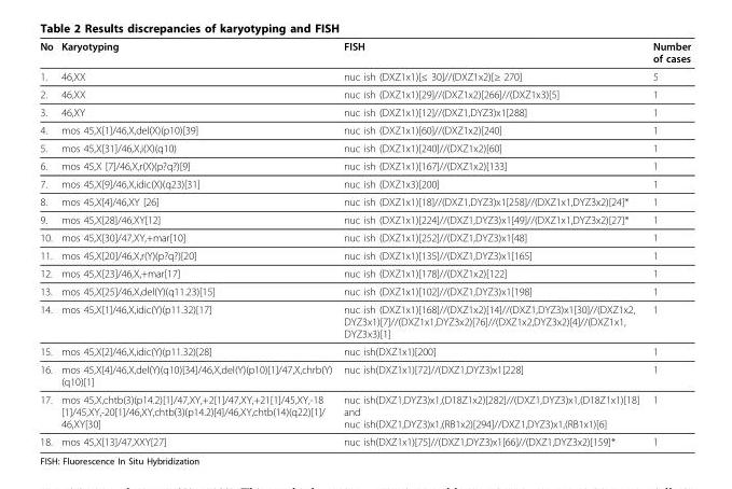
<table><thead><tr><td>No</td><td>Karyotyping</td><td>FISH</td><td>Number of cases</td></tr></thead><tbody><tr><td>1.</td><td>46,XX</td><td>nuc ish (DXZ1x1)[≤ 30]//(DXZ1x2)[≥ 270]</td><td>5</td></tr><tr><td>2.</td><td>46,XX</td><td>nuc ish (DXZ1x1)[29]//(DXZ1x2)[266]//(DXZ1x3)[5]</td><td>1</td></tr><tr><td>3.</td><td>46,XY</td><td>nuc ish (DXZ1x1)[12]//(DXZ1,DYZ3)x1[288]</td><td>1</td></tr><tr><td>4.</td><td>mos 45,X[1]/46,X,del(X)(p10)[39]</td><td>nuc ish (DXZ1x1)[60]//(DXZ1x2)[240]</td><td>1</td></tr><tr><td>5.</td><td>mos 45,X[31]/46,X,i(X)(q10)</td><td>nuc ish (DXZ1x1)[240]//(DXZ1x2)[60]</td><td>1</td></tr><tr><td>6.</td><td>mos 45,X [7]/46,X,r(X)(p?q?)[9]</td><td>nuc ish (DXZ1x1)[167]//(DXZ1x2)[133]</td><td>1</td></tr><tr><td>7.</td><td>mos 45,X[9]/46,X,idic(X)(q23)[31]</td><td>nuc ish (DXZ1x3)[200]</td><td>1</td></tr><tr><td>8.</td><td>mos 45,X[4]/46,XY [26]</td><td>nuc ish (DXZ1x1)[18]//(DXZ1,DYZ3)x1[258]//(DXZ1x1,DYZ3x2)[24]*</td><td>1</td></tr><tr><td>9.</td><td>mos 45,X[28]/46,XY[12]</td><td>nuc ish (DXZ1x1)[224]//(DXZ1,DYZ3)x1[49]//(DXZ1x1,DYZ3x2)[27]*</td><td>1</td></tr><tr><td>10.</td><td>mos 45,X[30]/47,XY,+mar[10]</td><td>nuc ish (DXZ1x1)[252]//(DXZ1,DYZ3)x1[48]</td><td>1</td></tr><tr><td>11.</td><td>mos 45,X[20]/46,X,r(Y)(p?q?)[20]</td><td>nuc ish (DXZ1x1)[135]//(DXZ1,DYZ3)x1[165]</td><td>1</td></tr><tr><td>12.</td><td>mos 45,X[23]/46,X,+mar[17]</td><td>nuc ish (DXZ1x1)[178]//(DXZ1x2)[122]</td><td>1</td></tr><tr><td>13.</td><td>mos 45,X[25]/46,X,del(Y)(q11.23)[15]</td><td>nuc ish (DXZ1x1)[102]//(DXZ1,DYZ3)x1[198]</td><td>1</td></tr><tr><td>14.</td><td>mos 45,X[1]/46,X,idic(Y)(p11.32)[17]</td><td>nuc ish (DXZ1x1)[168]//(DXZ1x2)[14]//(DXZ1,DYZ3)x1[30]//(DXZ1x2, DYZ3x1)[7]//(DXZ1x1,DYZ3x2)[76]//(DXZ1x2,DYZ3x2)[4]//(DXZ1x1, DYZ3x3)[1]</td><td>1</td></tr><tr><td>15.</td><td>mos 45,X[2]/46,X,idic(Y)(p11.32)[28]</td><td>nuc ish(DXZ1x1)[200]</td><td>1</td></tr><tr><td>16.</td><td>mos 45,X[4]/46,X,del(Y)(q10)[34]/46,X,del(Y)(p10)[1]/47,X,chrb(Y) (q10)[1]</td><td>nuc ish(DXZ1x1)[72]//(DXZ1,DYZ3)x1[228]</td><td>1</td></tr><tr><td>17.</td><td>mos 45,X,chtb(3)(p14.2)[1]/47,XY,+2[1]/47,XY,+21[1]/45,XY,-18 [1]/45,XY,-20[1]/46,XY,chtb(3)(p14.2)[4]/46,XY,chtb(14)(q22)[1]/ 46,XY[30]</td><td>nuc ish(DXZ1,DYZ3)x1,(D18Z1x2)[282]//(DXZ1,DYZ3)x1,(D18Z1x1)[18] and nuc ish(DXZ1,DYZ3)x1,(RB1x2)[294]//DXZ1,DYZ3)x1,(RB1x1)[6]</td><td>1</td></tr><tr><td>18.</td><td>mos 45,X[13]/47,XXY[27]</td><td>nuc ish(DXZ1x1)[75]//(DXZ1,DYZ3)x1[66]//(DXZ1,DYZ3x2)[159]*</td><td>1</td></tr></tbody></table>